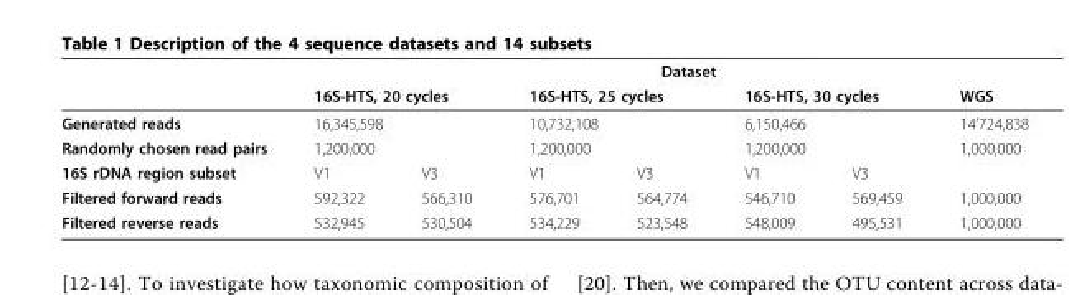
<table><thead><tr><td rowspan="5">Generated reads Randomly chosen read pairs 16S rDNA region subset</td><td colspan="7">Dataset</td></tr><tr><td rowspan="3" colspan="2">16S-HTS, 20 cycles 16,345,598 1,200,000</td><td rowspan="3" colspan="2">16S-HTS, 25 cycles 10,732,108 1,200,000</td><td rowspan="3" colspan="2">16S-HTS, 30 cycles 6,150,466 1,200,000</td><td rowspan="4">WGS 14’724,838 1,000,000</td></tr><tr></tr><tr></tr><tr><td>V1</td><td>V3</td><td>V1</td><td>V3</td><td>V1</td><td>V3</td></tr></thead><tbody><tr><td>Filtered forward reads</td><td>592,322</td><td>566,310</td><td>576,701</td><td>564,774</td><td>546,710</td><td>569,459</td><td>1,000,000</td></tr><tr><td>Filtered reverse reads</td><td>532,945</td><td>530,504</td><td>534,229</td><td>523,548</td><td>548,009</td><td>495,531</td><td>1,000,000</td></tr></tbody></table>